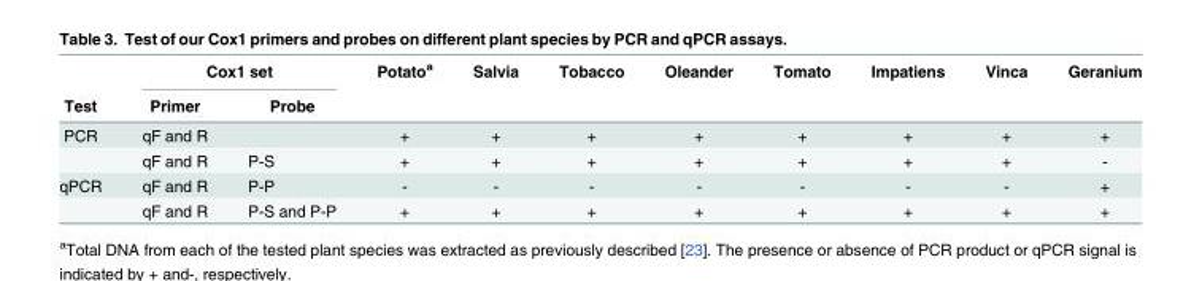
<table><thead><tr><td rowspan="2">Test</td><td colspan="2">Cox1 set</td><td rowspan="2">Potato<sup>a</sup></td><td rowspan="2">Salvia</td><td rowspan="2">Tobacco</td><td rowspan="2">Oleander</td><td rowspan="2">Tomato</td><td rowspan="2">Impatiens</td><td rowspan="2">Vinca</td><td rowspan="2">Geranium</td></tr><tr><td>Primer</td><td>Probe</td></tr></thead><tbody><tr><td rowspan="2">PCR</td><td>qF and R</td><td></td><td>+</td><td>+</td><td>+</td><td>+</td><td>+</td><td>+</td><td>+</td><td>+</td></tr><tr><td>qF and R</td><td>P-S</td><td>+</td><td>+</td><td>+</td><td>+</td><td>+</td><td>+</td><td>+</td><td>-</td></tr><tr><td rowspan="2">qPCR</td><td>qF and R</td><td>P-P</td><td>-</td><td>-</td><td>-</td><td>-</td><td>-</td><td>-</td><td>-</td><td>+</td></tr><tr><td>qF and R</td><td>P-S and P-P</td><td>+</td><td>+</td><td>+</td><td>+</td><td>+</td><td>+</td><td>+</td><td>+</td></tr></tbody></table>